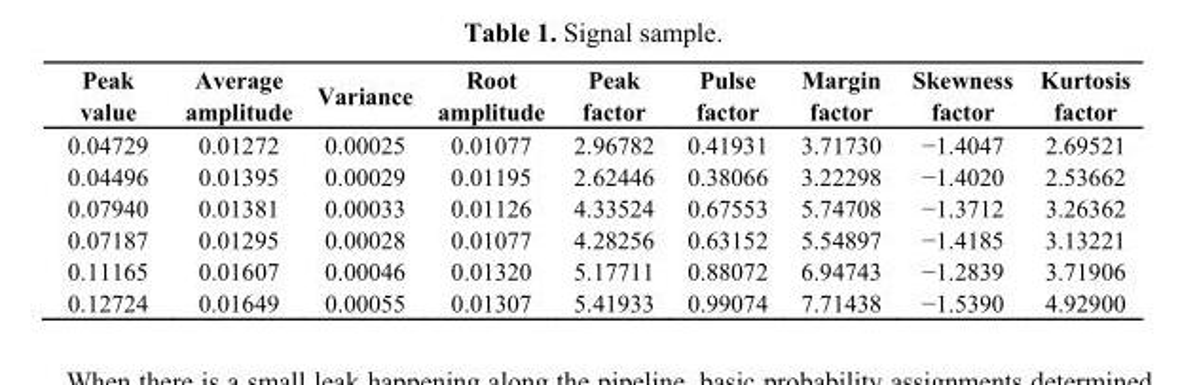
<table><thead><tr><td>Peak value</td><td>Average amplitude</td><td>Variance</td><td>Root amplitude</td><td>Peak factor</td><td>Pulse factor</td><td>Margin factor</td><td>Skewness factor</td><td>Kurtosis factor</td></tr></thead><tbody><tr><td>0.04729</td><td>0.01272</td><td>0.00025</td><td>0.01077</td><td>2.96782</td><td>0.41931</td><td>3.71730</td><td>−1.4047</td><td>2.69521</td></tr><tr><td>0.04496</td><td>0.01395</td><td>0.00029</td><td>0.01195</td><td>2.62446</td><td>0.38066</td><td>3.22298</td><td>−1.4020</td><td>2.53662</td></tr><tr><td>0.07940</td><td>0.01381</td><td>0.00033</td><td>0.01126</td><td>4.33524</td><td>0.67553</td><td>5.74708</td><td>−1.3712</td><td>3.26362</td></tr><tr><td>0.07187</td><td>0.01295</td><td>0.00028</td><td>0.01077</td><td>4.28256</td><td>0.63152</td><td>5.54897</td><td>−1.4185</td><td>3.13221</td></tr><tr><td>0.11165</td><td>0.01607</td><td>0.00046</td><td>0.01320</td><td>5.17711</td><td>0.88072</td><td>6.94743</td><td>−1.2839</td><td>3.71906</td></tr><tr><td>0.12724</td><td>0.01649</td><td>0.00055</td><td>0.01307</td><td>5.41933</td><td>0.99074</td><td>7.71438</td><td>−1.5390</td><td>4.92900</td></tr></tbody></table>